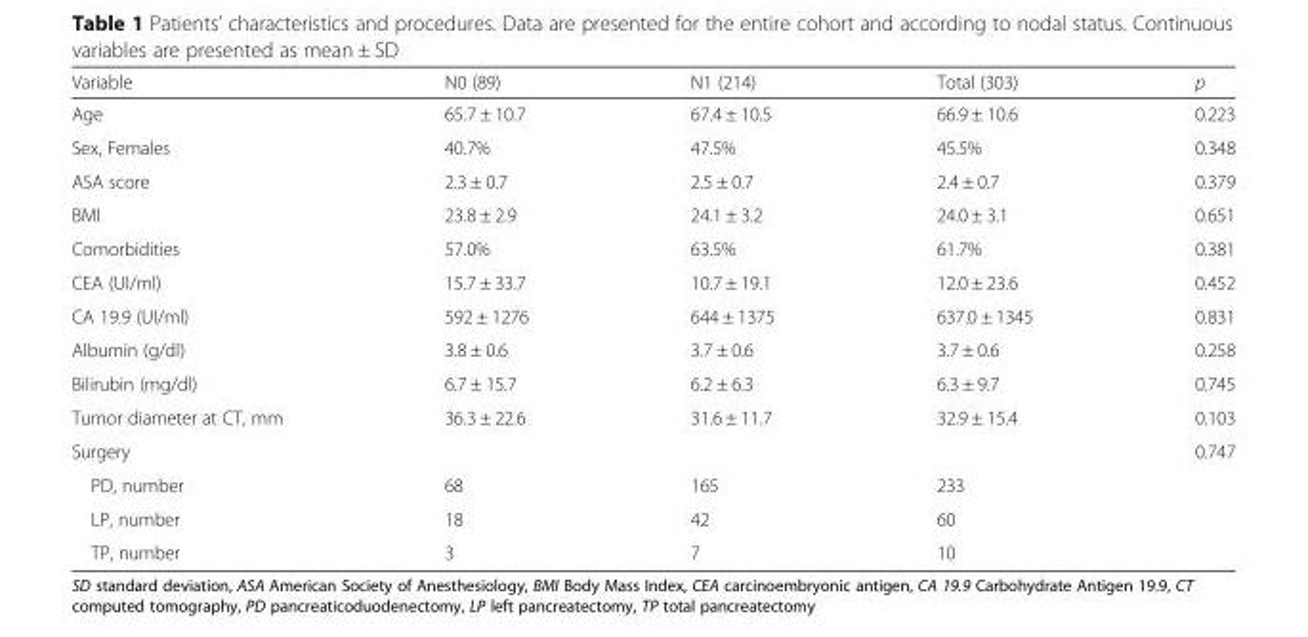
<table><thead><tr><td>Variable</td><td>N0 (89)</td><td>N1 (214)</td><td>Total (303)</td><td>p</td></tr></thead><tbody><tr><td>Age</td><td>65.7 ± 10.7</td><td>67.4 ± 10.5</td><td>66.9 ± 10.6</td><td>0.223</td></tr><tr><td>Sex, Females</td><td>40.7%</td><td>47.5%</td><td>45.5%</td><td>0.348</td></tr><tr><td>ASA score</td><td>2.3 ± 0.7</td><td>2.5 ± 0.7</td><td>2.4 ± 0.7</td><td>0.379</td></tr><tr><td>BMI</td><td>23.8 ± 2.9</td><td>24.1 ± 3.2</td><td>24.0 ± 3.1</td><td>0.651</td></tr><tr><td>Comorbidities</td><td>57.0%</td><td>63.5%</td><td>61.7%</td><td>0.381</td></tr><tr><td>CEA (UI/ml)</td><td>15.7 ± 33.7</td><td>10.7 ± 19.1</td><td>12.0 ± 23.6</td><td>0.452</td></tr><tr><td>CA 19.9 (UI/ml)</td><td>592 ± 1276</td><td>644 ± 1375</td><td>637.0 ± 1345</td><td>0.831</td></tr><tr><td>Albumin (g/dl)</td><td>3.8 ± 0.6</td><td>3.7 ± 0.6</td><td>3.7 ± 0.6</td><td>0.258</td></tr><tr><td>Bilirubin (mg/dl)</td><td>6.7 ± 15.7</td><td>6.2 ± 6.3</td><td>6.3 ± 9.7</td><td>0.745</td></tr><tr><td>Tumor diameter at CT, mm</td><td>36.3 ± 22.6</td><td>31.6 ± 11.7</td><td>32.9 ± 15.4</td><td>0.103</td></tr><tr><td>Surgery</td><td></td><td></td><td></td><td>0.747</td></tr><tr><td>PD, number</td><td>68</td><td>165</td><td>233</td><td></td></tr><tr><td>LP, number</td><td>18</td><td>42</td><td>60</td><td></td></tr><tr><td>TP, number</td><td>3</td><td>7</td><td>10</td><td></td></tr></tbody></table>